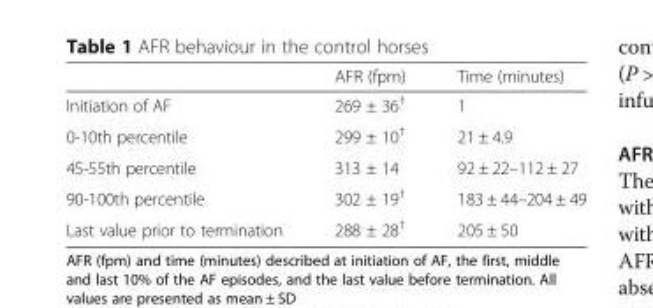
<table><thead><tr><td></td><td>AFR (fpm)</td><td>Time (minutes)</td></tr></thead><tbody><tr><td>Initiation of AF</td><td>269 ± 36<sup>†</sup></td><td>1</td></tr><tr><td>0-10th percentile</td><td>299 ± 10<sup>†</sup></td><td>21 ± 4.9</td></tr><tr><td>45-55th percentile</td><td>313 ± 14</td><td>92 ± 22–112 ± 27</td></tr><tr><td>90-100th percentile</td><td>302 ± 19<sup>†</sup></td><td>183 ± 44–204 ± 49</td></tr><tr><td>Last value prior to termination</td><td>288 ± 28<sup>†</sup></td><td>205 ± 50</td></tr></tbody></table>